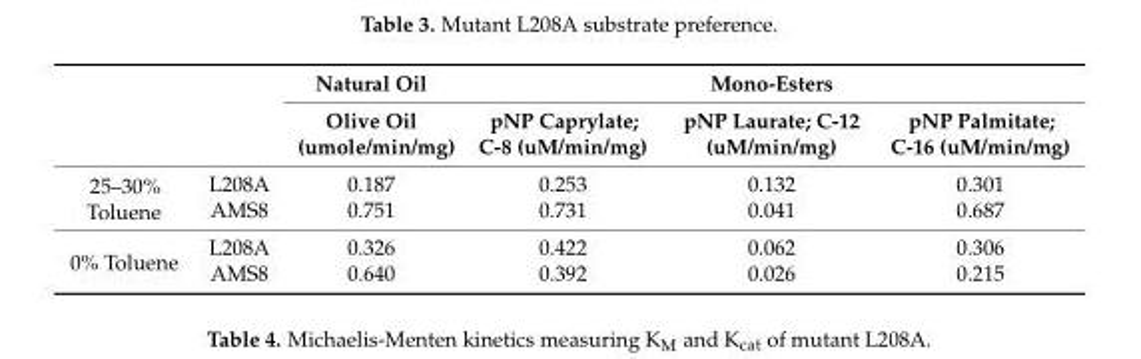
<table><thead><tr><td rowspan="2"></td><td rowspan="2"></td><td rowspan="2">Natural Oil Olive Oil (umole/min/mg)</td><td colspan="3">Mono-Esters</td></tr><tr><td>pNP Caprylate; C-8 (uM/min/mg)</td><td>pNP Laurate; C-12 (uM/min/mg)</td><td>pNP Palmitate; C-16 (uM/min/mg)</td></tr></thead><tbody><tr><td rowspan="2">25–30% Toluene</td><td>L208A</td><td>0.187</td><td>0.253</td><td>0.132</td><td>0.301</td></tr><tr><td>AMS8</td><td>0.751</td><td>0.731</td><td>0.041</td><td>0.687</td></tr><tr><td rowspan="2">0% Toluene</td><td>L208A</td><td>0.326</td><td>0.422</td><td>0.062</td><td>0.306</td></tr><tr><td>AMS8</td><td>0.640</td><td>0.392</td><td>0.026</td><td>0.215</td></tr></tbody></table>